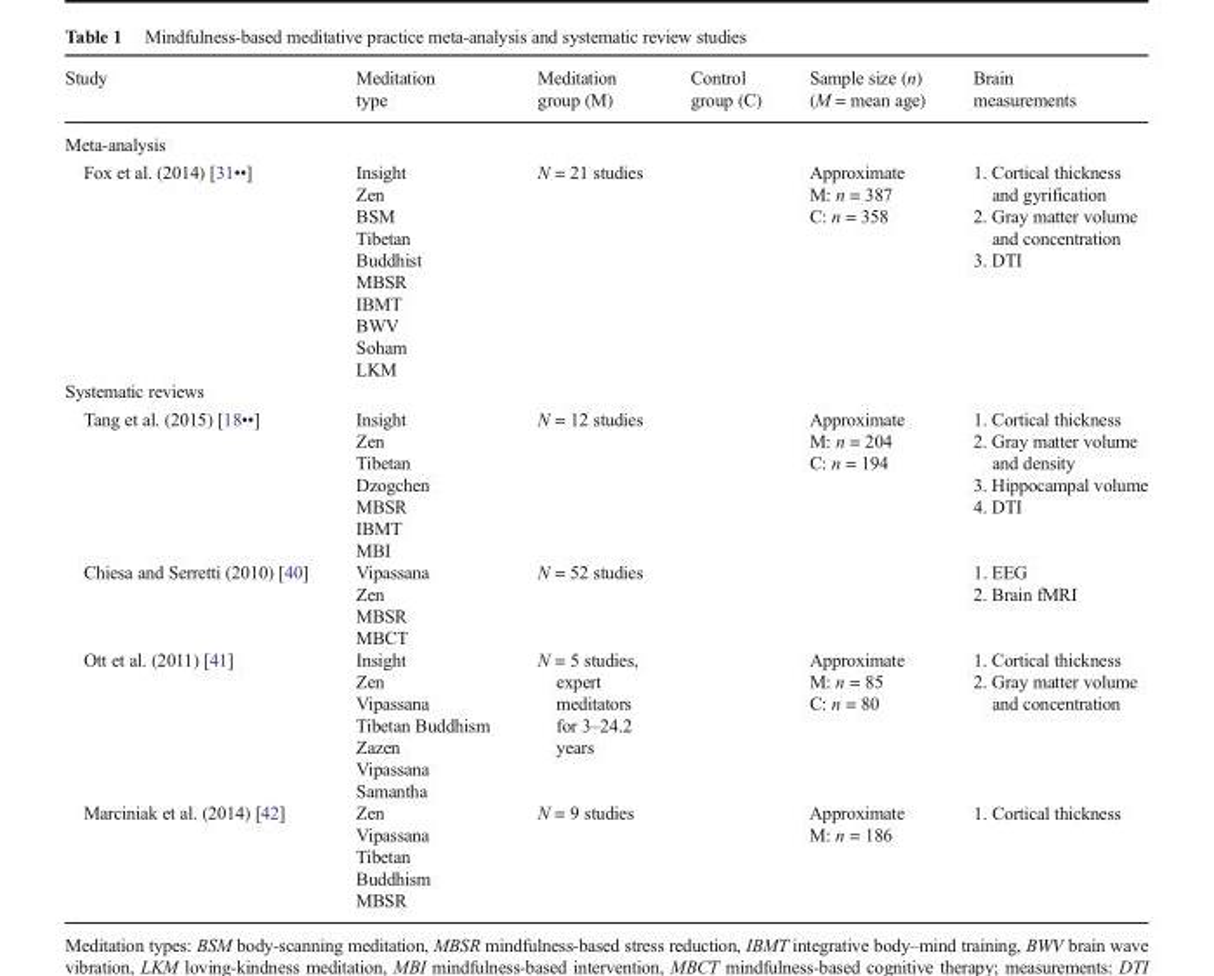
<table><thead><tr><td>Study</td><td>Meditation type</td><td>Meditation group (M)</td><td>Control group (C)</td><td>Sample size (n) (M = mean age)</td><td>Brain measurements</td></tr></thead><tbody><tr><td colspan="6">Meta-analysis</td></tr><tr><td>Fox et al. (2014) [31••]</td><td>Insight Zen BSM Tibetan Buddhist MBSR IBMT BWV Soham LKM</td><td>N = 21 studies</td><td></td><td>Approximate M: n = 387 C: n = 358</td><td>1. Cortical thickness and gyrification 2. Gray matter volume and concentration 3. DTI</td></tr><tr><td colspan="6">Systematic reviews</td></tr><tr><td>Tang et al. (2015) [18••]</td><td>Insight Zen Tibetan Dzogchen MBSR IBMT MBI</td><td>N = 12 studies</td><td></td><td>Approximate M: n = 204 C: n = 194</td><td>1. Cortical thickness 2. Gray matter volume and density 3. Hippocampal volume 4. DTI</td></tr><tr><td>Chiesa and Serretti (2010) [40]</td><td>Vipassana Zen MBSR MBCT</td><td>N = 52 studies</td><td></td><td></td><td>1. EEG 2. Brain fMRI</td></tr><tr><td>Ott et al. (2011) [41]</td><td>Insight Zen Vipassana Tibetan Buddhism Zazen Vipassana Samantha</td><td>N = 5 studies, expert meditators for 3–24.2 years</td><td></td><td>Approximate M: n = 85 C: n = 80</td><td>1. Cortical thickness 2. Gray matter volume and concentration</td></tr><tr><td>Marciniak et al. (2014) [42]</td><td>Zen Vipassana Tibetan Buddhism MBSR</td><td>N = 9 studies</td><td></td><td>Approximate M: n = 186</td><td>1. Cortical thickness</td></tr></tbody></table>